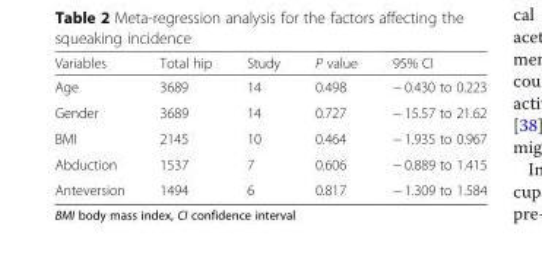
<table><thead><tr><td>Variables</td><td>Total hip</td><td>Study</td><td>P value</td><td>95% CI</td></tr></thead><tbody><tr><td>Age</td><td>3689</td><td>14</td><td>0.498</td><td>− 0.430 to 0.223</td></tr><tr><td>Gender</td><td>3689</td><td>14</td><td>0.727</td><td>− 15.57 to 21.62</td></tr><tr><td>BMI</td><td>2145</td><td>10</td><td>0.464</td><td>− 1.935 to 0.967</td></tr><tr><td>Abduction</td><td>1537</td><td>7</td><td>0.606</td><td>− 0.889 to 1.415</td></tr><tr><td>Anteversion</td><td>1494</td><td>6</td><td>0.817</td><td>− 1.309 to 1.584</td></tr></tbody></table>